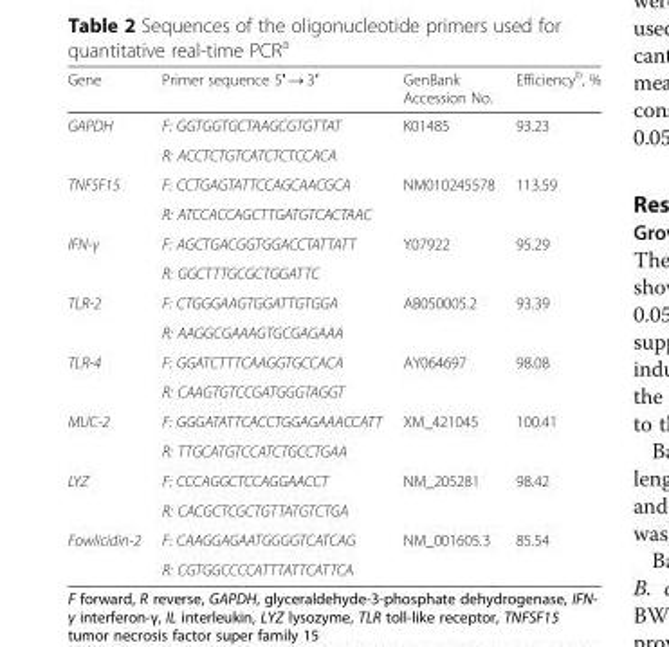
<table><thead><tr><td>Gene</td><td>Primer sequence 5′ → 3′</td><td>GenBank Accession No.</td><td>Efficiency<sup>b</sup>, %</td></tr></thead><tbody><tr><td rowspan="2">GAPDH</td><td>F: GGTGGTGCTAAGCGTGTTAT</td><td rowspan="2">K01485</td><td rowspan="2">93.23</td></tr><tr><td>R: ACCTCTGTCATCTCTCCACA</td></tr><tr><td rowspan="2">TNFSF15</td><td>F: CCTGAGTATTCCAGCAACGCA</td><td rowspan="2">NM010245578</td><td rowspan="2">113.59</td></tr><tr><td>R: ATCCACCAGCTTGATGTCACTAAC</td></tr><tr><td rowspan="2">IFN-γ</td><td>F: AGCTGACGGTGGACCTATTATT</td><td rowspan="2">Y07922</td><td rowspan="2">95.29</td></tr><tr><td>R: GGCTTTGCGCTGGATTC</td></tr><tr><td rowspan="2">TLR-2</td><td>F: CTGGGAAGTGGATTGTGGA</td><td rowspan="2">AB050005.2</td><td rowspan="2">93.39</td></tr><tr><td>R: AAGGCGAAAGTGCGAGAAA</td></tr><tr><td rowspan="2">TLR-4</td><td>F: GGATCTTTCAAGGTGCCACA</td><td rowspan="2">AY064697</td><td rowspan="2">98.08</td></tr><tr><td>R: CAAGTGTCCGATGGGTAGGT</td></tr><tr><td rowspan="2">MUC-2</td><td>F: GGGATATTCACCTGGAGAAACCATT</td><td rowspan="2">XM_421045</td><td rowspan="2">100.41</td></tr><tr><td>R: TTGCATGTCCATCTGCCTGAA</td></tr><tr><td rowspan="2">LYZ</td><td>F: CCCAGGCTCCAGGAACCT</td><td rowspan="2">NM_205281</td><td rowspan="2">98.42</td></tr><tr><td>R: CACGCTCGCTGTTATGTCTGA</td></tr><tr><td rowspan="2">Fowlicidin-2</td><td>F: CAAGGAGAATGGGGTCATCAG</td><td rowspan="2">NM_001605.3</td><td rowspan="2">85.54</td></tr><tr><td>R: CGTGGCCCCATTTATTCATTCA</td></tr></tbody></table>